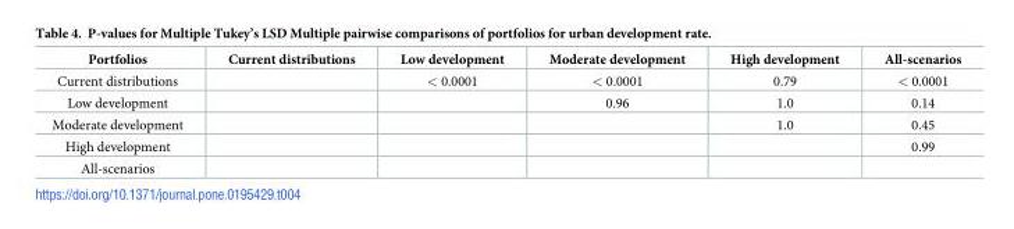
<table><thead><tr><td>Portfolios</td><td>Current distributions</td><td>Low development</td><td>Moderate development</td><td>High development</td><td>All-scenarios</td></tr></thead><tbody><tr><td>Current distributions</td><td></td><td>&lt; 0.0001</td><td>&lt; 0.0001</td><td>0.79</td><td>&lt; 0.0001</td></tr><tr><td>Low development</td><td></td><td></td><td>0.96</td><td>1.0</td><td>0.14</td></tr><tr><td>Moderate development</td><td></td><td></td><td></td><td>1.0</td><td>0.45</td></tr><tr><td>High development</td><td></td><td></td><td></td><td></td><td>0.99</td></tr><tr><td>All-scenarios</td><td></td><td></td><td></td><td></td><td></td></tr></tbody></table>